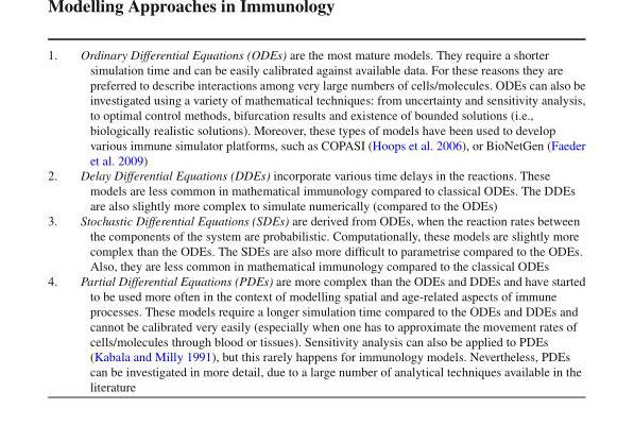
<table><tbody><tr><td>1.</td><td>Ordinary Differential Equations (ODEs) are the most mature models. They require a shorter simulation time and can be easily calibrated against available data. For these reasons they are preferred to describe interactions among very large numbers of cells/molecules. ODEs can also be investigated using a variety of mathematical techniques: from uncertainty and sensitivity analysis, to optimal control methods, bifurcation results and existence of bounded solutions (i.e., biologically realistic solutions). Moreover, these types of models have been used to develop various immune simulator platforms, such as COPASI (Hoops et al. 2006), or BioNetGen (Faeder et al. 2009)</td></tr><tr><td>2.</td><td>Delay Differential Equations (DDEs) incorporate various time delays in the reactions. These models are less common in mathematical immunology compared to classical ODEs. The DDEs are also slightly more complex to simulate numerically (compared to the ODEs)</td></tr><tr><td>3.</td><td>Stochastic Differential Equations (SDEs) are derived from ODEs, when the reaction rates between the components of the system are probabilistic. Computationally, these models are slightly more complex than the ODEs. The SDEs are also more difficult to parametrise compared to the ODEs. Also, they are less common in mathematical immunology compared to the classical ODEs</td></tr><tr><td>4.</td><td>Partial Differential Equations (PDEs) are more complex than the ODEs and DDEs and have started to be used more often in the context of modelling spatial and age-related aspects of immune processes. These models require a longer simulation time compared to the ODEs and DDEs and cannot be calibrated very easily (especially when one has to approximate the movement rates of cells/molecules through blood or tissues). Sensitivity analysis can also be applied to PDEs (Kabala and Milly 1991), but this rarely happens for immunology models. Nevertheless, PDEs can be investigated in more detail, due to a large number of analytical techniques available in the literature</td></tr></tbody></table>